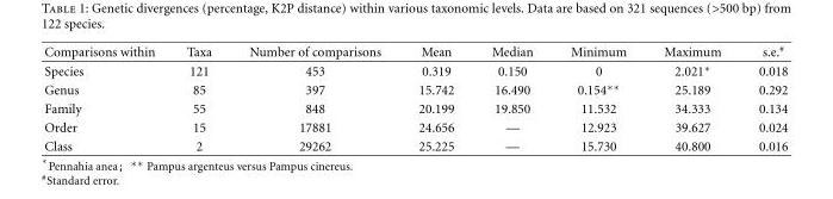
<table><thead><tr><td>Comparisons within</td><td>Taxa</td><td>Number of comparisons</td><td>Mean</td><td>Median</td><td>Minimum</td><td>Maximum</td><td>s.e.<sup>#</sup></td></tr></thead><tbody><tr><td>Species</td><td>121</td><td>453</td><td>0.319</td><td>0.150</td><td>0</td><td>2.021∗</td><td>0.018</td></tr><tr><td>Genus</td><td>85</td><td>397</td><td>15.742</td><td>16.490</td><td>0.154∗∗</td><td>25.189</td><td>0.292</td></tr><tr><td>Family</td><td>55</td><td>848</td><td>20.199</td><td>19.850</td><td>11.532</td><td>34.333</td><td>0.134</td></tr><tr><td>Order</td><td>15</td><td>17881</td><td>24.656</td><td>—</td><td>12.923</td><td>39.627</td><td>0.024</td></tr><tr><td>Class</td><td>2</td><td>29262</td><td>25.225</td><td>—</td><td>15.730</td><td>40.800</td><td>0.016</td></tr></tbody></table>